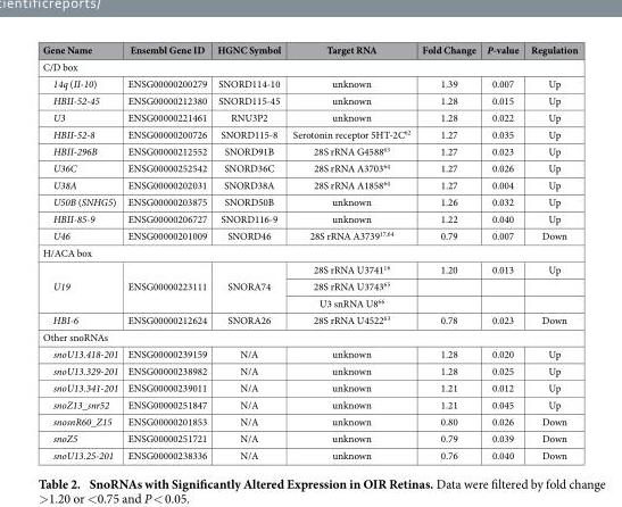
<table><thead><tr><td>Gene Name</td><td>Ensembl Gene ID</td><td>HGNC Symbol</td><td>Target RNA</td><td>Fold Change</td><td>P-value</td><td>Regulation</td></tr></thead><tbody><tr><td colspan="7">C/D box</td></tr><tr><td>14q (II-10)</td><td>ENSG00000200279</td><td>SNORD114-10</td><td>unknown</td><td>1.39</td><td>0.007</td><td>Up</td></tr><tr><td>HBII-52-45</td><td>ENSG00000212380</td><td>SNORD115-45</td><td>unknown</td><td>1.28</td><td>0.015</td><td>Up</td></tr><tr><td>U3</td><td>ENSG00000221461</td><td>RNU3P2</td><td>unknown</td><td>1.28</td><td>0.022</td><td>Up</td></tr><tr><td>HBII-52-8</td><td>ENSG00000200726</td><td>SNORD115-8</td><td>Serotonin receptor 5HT-2C<sup>62</sup></td><td>1.27</td><td>0.035</td><td>Up</td></tr><tr><td>HBII-296B</td><td>ENSG00000212552</td><td>SNORD91B</td><td>28S rRNA G4588<sup>63</sup></td><td>1.27</td><td>0.023</td><td>Up</td></tr><tr><td>U36C</td><td>ENSG00000252542</td><td>SNORD36C</td><td>28S rRNA A3703<sup>64</sup></td><td>1.27</td><td>0.026</td><td>Up</td></tr><tr><td>U38A</td><td>ENSG00000202031</td><td>SNORD38A</td><td>28S rRNA A1858<sup>64</sup></td><td>1.27</td><td>0.004</td><td>Up</td></tr><tr><td>U50B (SNHG5)</td><td>ENSG00000203875</td><td>SNORD50B</td><td>unknown</td><td>1.26</td><td>0.032</td><td>Up</td></tr><tr><td>HBII-85-9</td><td>ENSG00000206727</td><td>SNORD116-9</td><td>unknown</td><td>1.22</td><td>0.040</td><td>Up</td></tr><tr><td>U46</td><td>ENSG00000201009</td><td>SNORD46</td><td>28S rRNA A3739<sup>17</sup>,<sup>64</sup></td><td>0.79</td><td>0.007</td><td>Down</td></tr><tr><td colspan="7">H/ACA box</td></tr><tr><td rowspan="3">U19</td><td rowspan="3">ENSG00000223111</td><td rowspan="3">SNORA74</td><td>28S rRNA U3741<sup>16</sup></td><td>1.20</td><td>0.013</td><td>Up</td></tr><tr><td>28S rRNA U3743<sup>65</sup></td><td></td><td></td><td></td></tr><tr><td>U3 snRNA U8<sup>66</sup></td><td></td><td></td><td></td></tr><tr><td>HBI-6</td><td>ENSG00000212624</td><td>SNORA26</td><td>28S rRNA U4522<sup>63</sup></td><td>0.78</td><td>0.023</td><td>Down</td></tr><tr><td colspan="7">Other snoRNAs</td></tr><tr><td>snoU13.418-201</td><td>ENSG00000239159</td><td>N/A</td><td>unknown</td><td>1.28</td><td>0.020</td><td>Up</td></tr><tr><td>snoU13.329-201</td><td>ENSG00000238982</td><td>N/A</td><td>unknown</td><td>1.28</td><td>0.025</td><td>Up</td></tr><tr><td>snoU13.341-201</td><td>ENSG00000239011</td><td>N/A</td><td>unknown</td><td>1.21</td><td>0.012</td><td>Up</td></tr><tr><td>snoZ13_snr52</td><td>ENSG00000251847</td><td>N/A</td><td>unknown</td><td>1.21</td><td>0.045</td><td>Up</td></tr><tr><td>snosnR60_Z15</td><td>ENSG00000201853</td><td>N/A</td><td>unknown</td><td>0.80</td><td>0.026</td><td>Down</td></tr><tr><td>snoZ5</td><td>ENSG00000251721</td><td>N/A</td><td>unknown</td><td>0.79</td><td>0.039</td><td>Down</td></tr><tr><td>snoU13.25-201</td><td>ENSG00000238336</td><td>N/A</td><td>unknown</td><td>0.76</td><td>0.040</td><td>Down</td></tr></tbody></table>